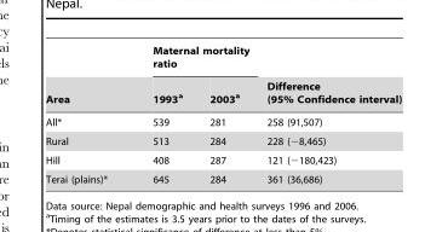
<table><thead><tr><td rowspan="2">Area</td><td colspan="2">Maternal mortality ratio</td><td rowspan="2">Difference (95% Confidence interval)</td></tr><tr><td>1993<sup>a</sup></td><td>2003<sup>a</sup></td></tr></thead><tbody><tr><td>All*</td><td>539</td><td>281</td><td>258 (91,507)</td></tr><tr><td>Rural</td><td>513</td><td>284</td><td>228 (−8,465)</td></tr><tr><td>Hill</td><td>408</td><td>287</td><td>121 (−180,423)</td></tr><tr><td>Terai (plains)*</td><td>645</td><td>284</td><td>361 (36,686)</td></tr></tbody></table>